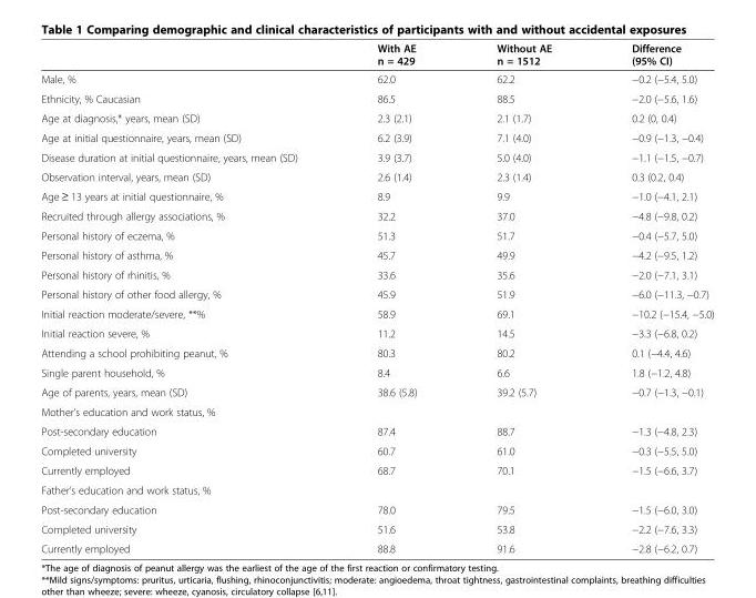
<table><thead><tr><td></td><td>With AE n = 429</td><td>Without AE n = 1512</td><td>Difference (95% CI)</td></tr></thead><tbody><tr><td>Male, %</td><td>62.0</td><td>62.2</td><td>−0.2 (−5.4, 5.0)</td></tr><tr><td>Ethnicity, % Caucasian</td><td>86.5</td><td>88.5</td><td>−2.0 (−5.6, 1.6)</td></tr><tr><td>Age at diagnosis,* years, mean (SD)</td><td>2.3 (2.1)</td><td>2.1 (1.7)</td><td>0.2 (0, 0.4)</td></tr><tr><td>Age at initial questionnaire, years, mean (SD)</td><td>6.2 (3.9)</td><td>7.1 (4.0)</td><td>−0.9 (−1.3, −0.4)</td></tr><tr><td>Disease duration at initial questionnaire, years, mean (SD)</td><td>3.9 (3.7)</td><td>5.0 (4.0)</td><td>−1.1 (−1.5, −0.7)</td></tr><tr><td>Observation interval, years, mean (SD)</td><td>2.6 (1.4)</td><td>2.3 (1.4)</td><td>0.3 (0.2, 0.4)</td></tr><tr><td>Age ≥ 13 years at initial questionnaire, %</td><td>8.9</td><td>9.9</td><td>−1.0 (−4.1, 2.1)</td></tr><tr><td>Recruited through allergy associations, %</td><td>32.2</td><td>37.0</td><td>−4.8 (−9.8, 0.2)</td></tr><tr><td>Personal history of eczema, %</td><td>51.3</td><td>51.7</td><td>−0.4 (−5.7, 5.0)</td></tr><tr><td>Personal history of asthma, %</td><td>45.7</td><td>49.9</td><td>−4.2 (−9.5, 1.2)</td></tr><tr><td>Personal history of rhinitis, %</td><td>33.6</td><td>35.6</td><td>−2.0 (−7.1, 3.1)</td></tr><tr><td>Personal history of other food allergy, %</td><td>45.9</td><td>51.9</td><td>−6.0 (−11.3, −0.7)</td></tr><tr><td>Initial reaction moderate/severe, **%</td><td>58.9</td><td>69.1</td><td>−10.2 (−15.4, −5.0)</td></tr><tr><td>Initial reaction severe, %</td><td>11.2</td><td>14.5</td><td>−3.3 (−6.8, 0.2)</td></tr><tr><td>Attending a school prohibiting peanut, %</td><td>80.3</td><td>80.2</td><td>0.1 (−4.4, 4.6)</td></tr><tr><td>Single parent household, %</td><td>8.4</td><td>6.6</td><td>1.8 (−1.2, 4.8)</td></tr><tr><td>Age of parents, years, mean (SD)</td><td>38.6 (5.8)</td><td>39.2 (5.7)</td><td>−0.7 (−1.3, −0.1)</td></tr><tr><td colspan="4">Mother’s education and work status, %</td></tr><tr><td>Post-secondary education</td><td>87.4</td><td>88.7</td><td>−1.3 (−4.8, 2.3)</td></tr><tr><td>Completed university</td><td>60.7</td><td>61.0</td><td>−0.3 (−5.5, 5.0)</td></tr><tr><td>Currently employed</td><td>68.7</td><td>70.1</td><td>−1.5 (−6.6, 3.7)</td></tr><tr><td colspan="4">Father’s education and work status, %</td></tr><tr><td>Post-secondary education</td><td>78.0</td><td>79.5</td><td>−1.5 (−6.0, 3.0)</td></tr><tr><td>Completed university</td><td>51.6</td><td>53.8</td><td>−2.2 (−7.6, 3.3)</td></tr><tr><td>Currently employed</td><td>88.8</td><td>91.6</td><td>−2.8 (−6.2, 0.7)</td></tr></tbody></table>